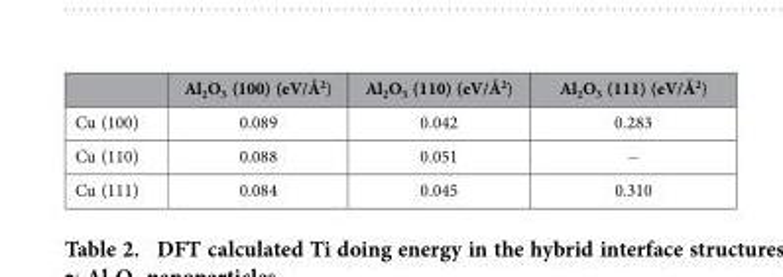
<table><thead><tr><td></td><td>Al<sub>2</sub>O<sub>3</sub> (100) (eV/Å<sup>2</sup>)</td><td>Al<sub>2</sub>O<sub>3</sub> (110) (eV/Å<sup>2</sup>)</td><td>Al<sub>2</sub>O<sub>3</sub> (111) (eV/Å<sup>2</sup>)</td></tr></thead><tbody><tr><td>Cu (100)</td><td>0.089</td><td>0.042</td><td>0.283</td></tr><tr><td>Cu (110)</td><td>0.088</td><td>0.051</td><td>−</td></tr><tr><td>Cu (111)</td><td>0.084</td><td>0.045</td><td>0.310</td></tr></tbody></table>